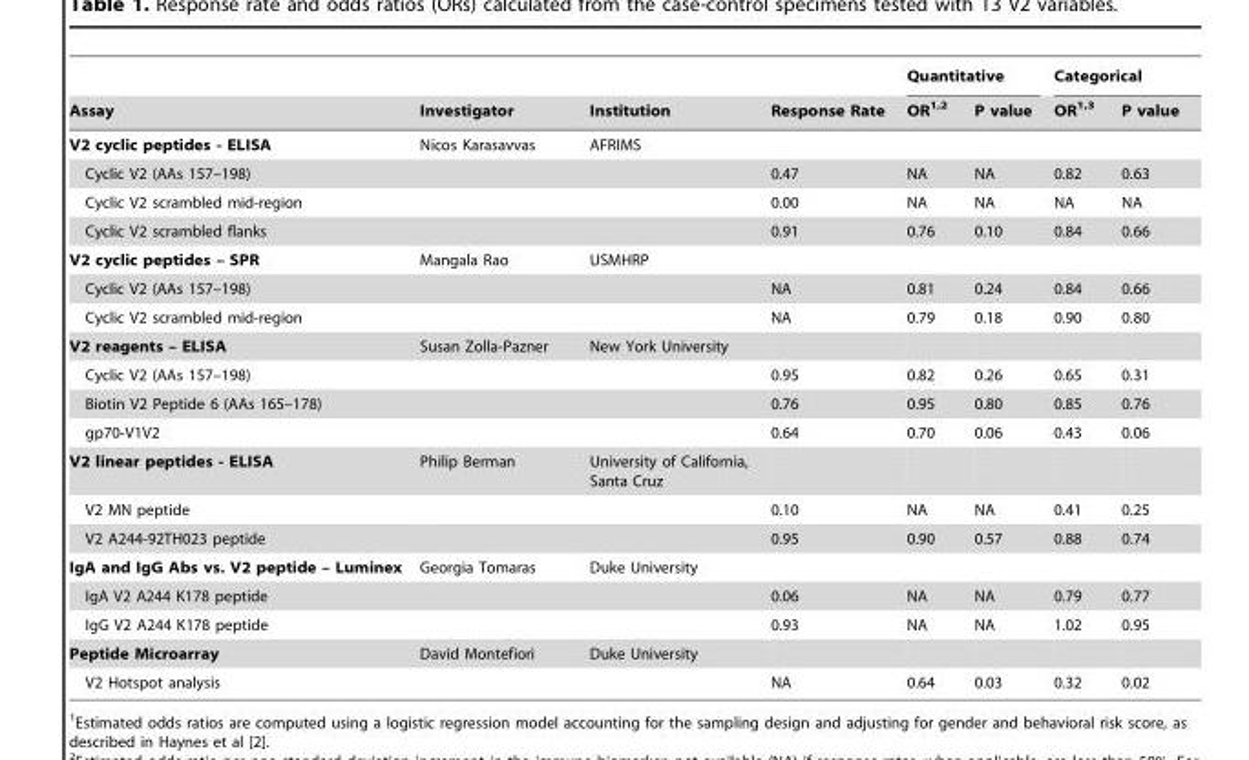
<table><thead><tr><td rowspan="2">Assay</td><td rowspan="2">Investigator</td><td rowspan="2">Institution</td><td rowspan="2">Response Rate</td><td colspan="2">Quantitative</td><td colspan="2">Categorical</td></tr><tr><td>OR<sup>1,</sup>2</td><td>P value</td><td>OR<sup>1,</sup>3</td><td>P value</td></tr></thead><tbody><tr><td>V2 cyclic peptides - ELISA</td><td>Nicos Karasavvas</td><td>AFRIMS</td><td></td><td></td><td></td><td></td><td></td></tr><tr><td>Cyclic V2 (AAs 157–198)</td><td></td><td></td><td>0.47</td><td>NA</td><td>NA</td><td>0.82</td><td>0.63</td></tr><tr><td>Cyclic V2 scrambled mid-region</td><td></td><td></td><td>0.00</td><td>NA</td><td>NA</td><td>NA</td><td>NA</td></tr><tr><td>Cyclic V2 scrambled flanks</td><td></td><td></td><td>0.91</td><td>0.76</td><td>0.10</td><td>0.84</td><td>0.66</td></tr><tr><td>V2 cyclic peptides – SPR</td><td>Mangala Rao</td><td>USMHRP</td><td></td><td></td><td></td><td></td><td></td></tr><tr><td>Cyclic V2 (AAs 157–198)</td><td></td><td></td><td>NA</td><td>0.81</td><td>0.24</td><td>0.84</td><td>0.66</td></tr><tr><td>Cyclic V2 scrambled mid-region</td><td></td><td></td><td>NA</td><td>0.79</td><td>0.18</td><td>0.90</td><td>0.80</td></tr><tr><td>V2 reagents – ELISA</td><td>Susan Zolla-Pazner</td><td>New York University</td><td></td><td></td><td></td><td></td><td></td></tr><tr><td>Cyclic V2 (AAs 157–198)</td><td></td><td></td><td>0.95</td><td>0.82</td><td>0.26</td><td>0.65</td><td>0.31</td></tr><tr><td>Biotin V2 Peptide 6 (AAs 165–178)</td><td></td><td></td><td>0.76</td><td>0.95</td><td>0.80</td><td>0.85</td><td>0.76</td></tr><tr><td>gp70-V1V2</td><td></td><td></td><td>0.64</td><td>0.70</td><td>0.06</td><td>0.43</td><td>0.06</td></tr><tr><td>V2 linear peptides - ELISA</td><td>Philip Berman</td><td>University of California, Santa Cruz</td><td></td><td></td><td></td><td></td><td></td></tr><tr><td>V2 MN peptide</td><td></td><td></td><td>0.10</td><td>NA</td><td>NA</td><td>0.41</td><td>0.25</td></tr><tr><td>V2 A244-92TH023 peptide</td><td></td><td></td><td>0.95</td><td>0.90</td><td>0.57</td><td>0.88</td><td>0.74</td></tr><tr><td>IgA and IgG Abs vs. V2 peptide – Luminex</td><td>Georgia Tomaras</td><td>Duke University</td><td></td><td></td><td></td><td></td><td></td></tr><tr><td>IgA V2 A244 K178 peptide</td><td></td><td></td><td>0.06</td><td>NA</td><td>NA</td><td>0.79</td><td>0.77</td></tr><tr><td>IgG V2 A244 K178 peptide</td><td></td><td></td><td>0.93</td><td>NA</td><td>NA</td><td>1.02</td><td>0.95</td></tr><tr><td>Peptide Microarray</td><td>David Montefiori</td><td>Duke University</td><td></td><td></td><td></td><td></td><td></td></tr><tr><td>V2 Hotspot analysis</td><td></td><td></td><td>NA</td><td>0.64</td><td>0.03</td><td>0.32</td><td>0.02</td></tr></tbody></table>